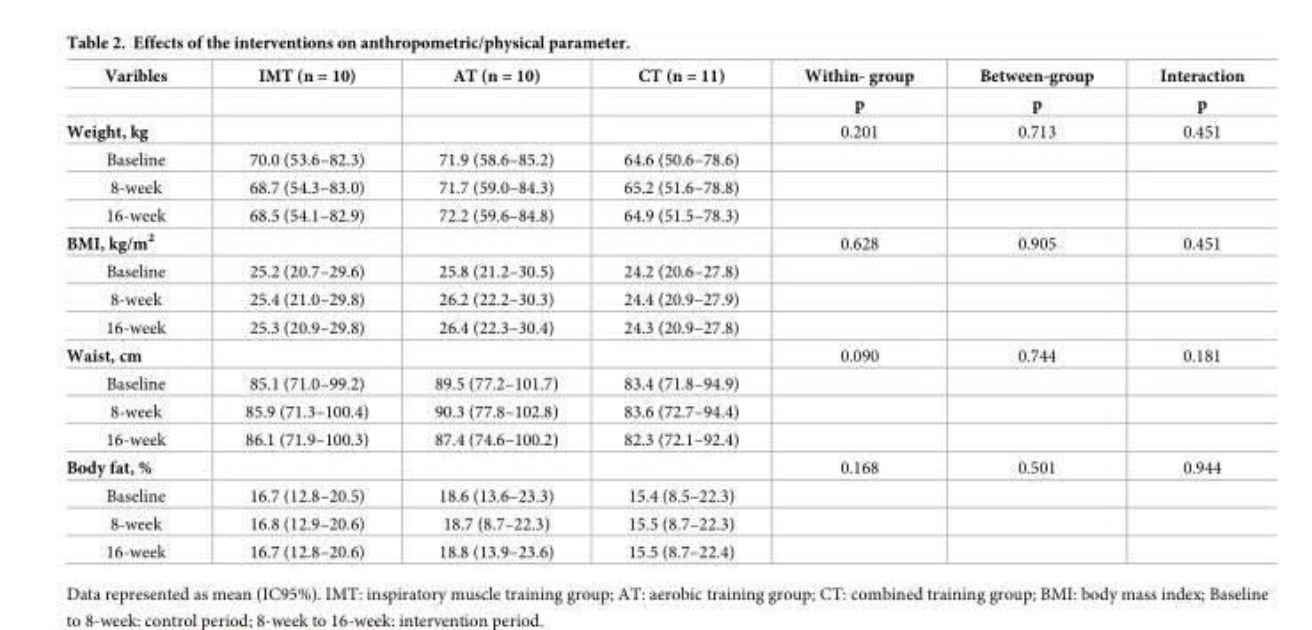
<table><thead><tr><td rowspan="2">Varibles</td><td rowspan="2">IMT (n = 10)</td><td rowspan="2">AT (n = 10)</td><td rowspan="2">CT (n = 11)</td><td rowspan="2">Within- group p</td><td rowspan="2">Between-group p</td><td rowspan="2">Interaction p</td></tr><tr></tr></thead><tbody><tr><td>Weight, kg</td><td></td><td></td><td></td><td>0.201</td><td>0.713</td><td>0.451</td></tr><tr><td>Baseline</td><td>70.0 (53.6–82.3)</td><td>71.9 (58.6–85.2)</td><td>64.6 (50.6–78.6)</td><td></td><td></td><td></td></tr><tr><td>8-week</td><td>68.7 (54.3–83.0)</td><td>71.7 (59.0–84.3)</td><td>65.2 (51.6–78.8)</td><td></td><td></td><td></td></tr><tr><td>16-week</td><td>68.5 (54.1–82.9)</td><td>72.2 (59.6–84.8)</td><td>64.9 (51.5–78.3)</td><td></td><td></td><td></td></tr><tr><td>BMI, kg/m<sup>2</sup></td><td></td><td></td><td></td><td>0.628</td><td>0.905</td><td>0.451</td></tr><tr><td>Baseline</td><td>25.2 (20.7–29.6)</td><td>25.8 (21.2–30.5)</td><td>24.2 (20.6–27.8)</td><td></td><td></td><td></td></tr><tr><td>8-week</td><td>25.4 (21.0–29.8)</td><td>26.2 (22.2–30.3)</td><td>24.4 (20.9–27.9)</td><td></td><td></td><td></td></tr><tr><td>16-week</td><td>25.3 (20.9–29.8)</td><td>26.4 (22.3–30.4)</td><td>24.3 (20.9–27.8)</td><td></td><td></td><td></td></tr><tr><td>Waist, cm</td><td></td><td></td><td></td><td>0.090</td><td>0.744</td><td>0.181</td></tr><tr><td>Baseline</td><td>85.1 (71.0–99.2)</td><td>89.5 (77.2–101.7)</td><td>83.4 (71.8–94.9)</td><td></td><td></td><td></td></tr><tr><td>8-week</td><td>85.9 (71.3–100.4)</td><td>90.3 (77.8–102.8)</td><td>83.6 (72.7–94.4)</td><td></td><td></td><td></td></tr><tr><td>16-week</td><td>86.1 (71.9–100.3)</td><td>87.4 (74.6–100.2)</td><td>82.3 (72.1–92.4)</td><td></td><td></td><td></td></tr><tr><td>Body fat, %</td><td></td><td></td><td></td><td>0.168</td><td>0.501</td><td>0.944</td></tr><tr><td>Baseline</td><td>16.7 (12.8–20.5)</td><td>18.6 (13.6–23.3)</td><td>15.4 (8.5–22.3)</td><td></td><td></td><td></td></tr><tr><td>8-week</td><td>16.8 (12.9–20.6)</td><td>18.7 (8.7–22.3)</td><td>15.5 (8.7–22.3)</td><td></td><td></td><td></td></tr><tr><td>16-week</td><td>16.7 (12.8–20.6)</td><td>18.8 (13.9–23.6)</td><td>15.5 (8.7–22.4)</td><td></td><td></td><td></td></tr></tbody></table>